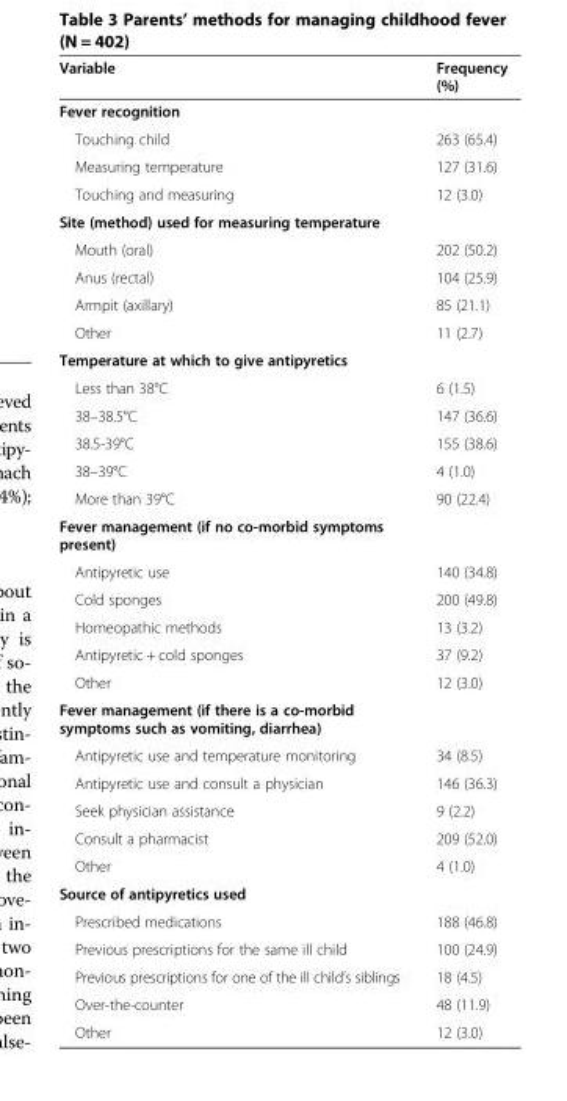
<table><thead><tr><td>Variable</td><td>Frequency (%)</td></tr></thead><tbody><tr><td colspan="2">Fever recognition</td></tr><tr><td>Touching child</td><td>263 (65.4)</td></tr><tr><td>Measuring temperature</td><td>127 (31.6)</td></tr><tr><td>Touching and measuring</td><td>12 (3.0)</td></tr><tr><td colspan="2">Site (method) used for measuring temperature</td></tr><tr><td>Mouth (oral)</td><td>202 (50.2)</td></tr><tr><td>Anus (rectal)</td><td>104 (25.9)</td></tr><tr><td>Armpit (axillary)</td><td>85 (21.1)</td></tr><tr><td>Other</td><td>11 (2.7)</td></tr><tr><td colspan="2">Temperature at which to give antipyretics</td></tr><tr><td>Less than 38°C</td><td>6 (1.5)</td></tr><tr><td>38–38.5°C</td><td>147 (36.6)</td></tr><tr><td>38.5-39°C</td><td>155 (38.6)</td></tr><tr><td>38–39°C</td><td>4 (1.0)</td></tr><tr><td>More than 39°C</td><td>90 (22.4)</td></tr><tr><td colspan="2">Fever management (if no co-morbid symptoms present)</td></tr><tr><td>Antipyretic use</td><td>140 (34.8)</td></tr><tr><td>Cold sponges</td><td>200 (49.8)</td></tr><tr><td>Homeopathic methods</td><td>13 (3.2)</td></tr><tr><td>Antipyretic + cold sponges</td><td>37 (9.2)</td></tr><tr><td>Other</td><td>12 (3.0)</td></tr><tr><td colspan="2">Fever management (if there is a co-morbid symptoms such as vomiting, diarrhea)</td></tr><tr><td>Antipyretic use and temperature monitoring</td><td>34 (8.5)</td></tr><tr><td>Antipyretic use and consult a physician</td><td>146 (36.3)</td></tr><tr><td>Seek physician assistance</td><td>9 (2.2)</td></tr><tr><td>Consult a pharmacist</td><td>209 (52.0)</td></tr><tr><td>Other</td><td>4 (1.0)</td></tr><tr><td colspan="2">Source of antipyretics used</td></tr><tr><td>Prescribed medications</td><td>188 (46.8)</td></tr><tr><td>Previous prescriptions for the same ill child</td><td>100 (24.9)</td></tr><tr><td>Previous prescriptions for one of the ill child’s siblings</td><td>18 (4.5)</td></tr><tr><td>Over-the-counter</td><td>48 (11.9)</td></tr><tr><td>Other</td><td>12 (3.0)</td></tr></tbody></table>